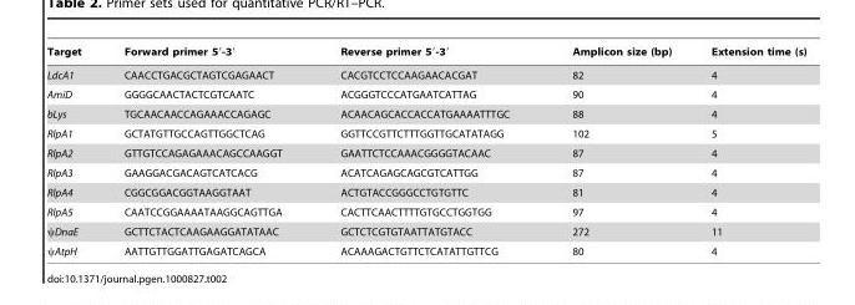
<table><thead><tr><td>Target</td><td>Forward primer 5′-3′</td><td>Reverse primer 5′-3′</td><td>Amplicon size (bp)</td><td>Extension time (s)</td></tr></thead><tbody><tr><td>LdcA1</td><td>CAACCTGACGCTAGTCGAGAACT</td><td>CACGTCCTCCAAGAACACGAT</td><td>82</td><td>4</td></tr><tr><td>AmiD</td><td>GGGGCAACTACTCGTCAATC</td><td>ACGGGTCCCATGAATCATTAG</td><td>90</td><td>4</td></tr><tr><td>bLys</td><td>TGCAACAACCAGAAACCAGAGC</td><td>ACAACAGCACCACCATGAAAATTTGC</td><td>88</td><td>4</td></tr><tr><td>RlpA1</td><td>GCTATGTTGCCAGTTGGCTCAG</td><td>GGTTCCGTTCTTTGGTTGCATATAGG</td><td>102</td><td>5</td></tr><tr><td>RlpA2</td><td>GTTGTCCAGAGAAACAGCCAAGGT</td><td>GAATTCTCCAAACGGGGTACAAC</td><td>87</td><td>4</td></tr><tr><td>RlpA3</td><td>GAAGGACGACAGTCATCACG</td><td>ACATCAGAGCAGCGTCATTGG</td><td>87</td><td>4</td></tr><tr><td>RlpA4</td><td>CGGCGGACGGTAAGGTAAT</td><td>ACTGTACCGGGCCTGTGTTC</td><td>81</td><td>4</td></tr><tr><td>RlpA5</td><td>CAATCCGGAAAATAAGGCAGTTGA</td><td>CACTTCAACTTTTGTGCCTGGTGG</td><td>97</td><td>4</td></tr><tr><td>ψDnaE</td><td>GCTTCTACTCAAGAAGGATATAAC</td><td>GCTCTCGTGTAATTATGTACC</td><td>272</td><td>11</td></tr><tr><td>ψAtpH</td><td>AATTGTTGGATTGAGATCAGCA</td><td>ACAAAGACTGTTCTCATATTGTTCG</td><td>80</td><td>4</td></tr></tbody></table>